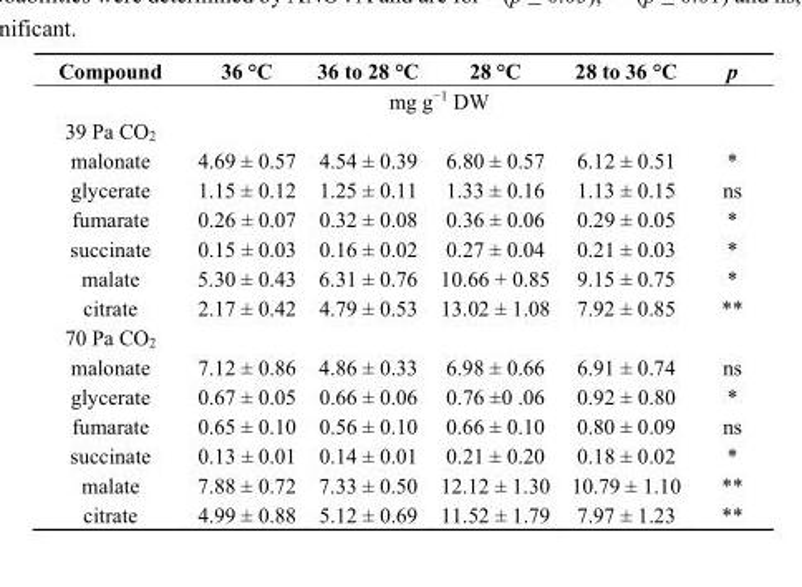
<table><thead><tr><td>Compound</td><td>36 °C</td><td>36 to 28 °C</td><td>28 °C</td><td>28 to 36 °C</td><td>p</td></tr></thead><tbody><tr><td></td><td colspan="4">mg g<sup>−1</sup> DW</td><td></td></tr><tr><td colspan="6">39 Pa CO<sub>2</sub></td></tr><tr><td>malonate</td><td>4.69 ± 0.57</td><td>4.54 ± 0.39</td><td>6.80 ± 0.57</td><td>6.12 ± 0.51</td><td>*</td></tr><tr><td>glycerate</td><td>1.15 ± 0.12</td><td>1.25 ± 0.11</td><td>1.33 ± 0.16</td><td>1.13 ± 0.15</td><td>ns</td></tr><tr><td>fumarate</td><td>0.26 ± 0.07</td><td>0.32 ± 0.08</td><td>0.36 ± 0.06</td><td>0.29 ± 0.05</td><td>*</td></tr><tr><td>succinate</td><td>0.15 ± 0.03</td><td>0.16 ± 0.02</td><td>0.27 ± 0.04</td><td>0.21 ± 0.03</td><td>*</td></tr><tr><td>malate</td><td>5.30 ± 0.43</td><td>6.31 ± 0.76</td><td>10.66 + 0.85</td><td>9.15 ± 0.75</td><td>*</td></tr><tr><td>citrate</td><td>2.17 ± 0.42</td><td>4.79 ± 0.53</td><td>13.02 ± 1.08</td><td>7.92 ± 0.85</td><td>**</td></tr><tr><td colspan="6">70 Pa CO<sub>2</sub></td></tr><tr><td>malonate</td><td>7.12 ± 0.86</td><td>4.86 ± 0.33</td><td>6.98 ± 0.66</td><td>6.91 ± 0.74</td><td>ns</td></tr><tr><td>glycerate</td><td>0.67 ± 0.05</td><td>0.66 ± 0.06</td><td>0.76 ±0 .06</td><td>0.92 ± 0.80</td><td>*</td></tr><tr><td>fumarate</td><td>0.65 ± 0.10</td><td>0.56 ± 0.10</td><td>0.66 ± 0.10</td><td>0.80 ± 0.09</td><td>ns</td></tr><tr><td>succinate</td><td>0.13 ± 0.01</td><td>0.14 ± 0.01</td><td>0.21 ± 0.20</td><td>0.18 ± 0.02</td><td>*</td></tr><tr><td>malate</td><td>7.88 ± 0.72</td><td>7.33 ± 0.50</td><td>12.12 ± 1.30</td><td>10.79 ± 1.10</td><td>**</td></tr><tr><td>citrate</td><td>4.99 ± 0.88</td><td>5.12 ± 0.69</td><td>11.52 ± 1.79</td><td>7.97 ± 1.23</td><td>**</td></tr></tbody></table>